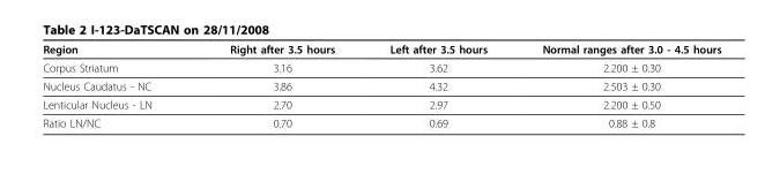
<table><thead><tr><td>Region</td><td>Right after 3.5 hours</td><td>Left after 3.5 hours</td><td>Normal ranges after 3.0 - 4.5 hours</td></tr></thead><tbody><tr><td>Corpus Striatum</td><td>3.16</td><td>3.62</td><td>2.200 ± 0.30</td></tr><tr><td>Nucleus Caudatus - NC</td><td>3.86</td><td>4.32</td><td>2.503 ± 0.30</td></tr><tr><td>Lenticular Nucleus - LN</td><td>2.70</td><td>2.97</td><td>2.200 ± 0.50</td></tr><tr><td>Ratio LN/NC</td><td>0.70</td><td>0.69</td><td>0.88 ± 0.8</td></tr></tbody></table>